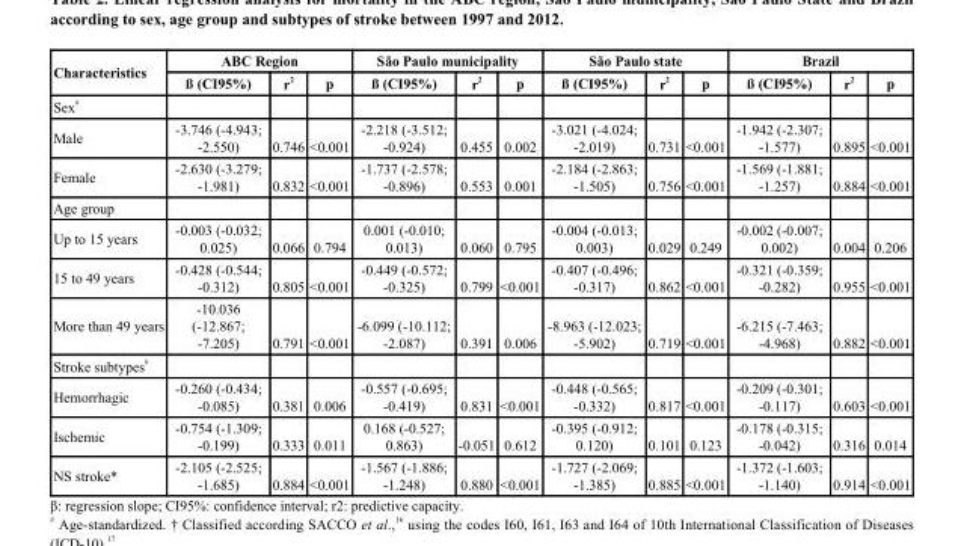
<table><thead><tr><td rowspan="2">Characteristics</td><td colspan="3">ABC Region</td><td colspan="3">São Paulo municipality</td><td colspan="3">São Paulo state</td><td colspan="3">Brazil</td></tr><tr><td>ß (CI95%)</td><td>r <sup>2</sup></td><td>p</td><td>ß (CI95%)</td><td>r <sup>2</sup></td><td>p</td><td>ß (CI95%)</td><td>r <sup>2</sup></td><td>p</td><td>ß (CI95%)</td><td>r <sup>2</sup></td><td>p</td></tr></thead><tbody><tr><td colspan="13">Sex <sup>#</sup></td></tr><tr><td>Male</td><td>-3.746 (-4.943; -2.550)</td><td>0.746</td><td>&lt;0.001</td><td>-2.218 (-3.512; -0.924)</td><td>0.455</td><td>0.002</td><td>-3.021 (-4.024; -2.019)</td><td>0.731</td><td>&lt;0.001</td><td>-1.942 (-2.307; -1.577)</td><td>0.895</td><td>&lt;0.001</td></tr><tr><td>Female</td><td>-2.630 (-3.279; -1.981)</td><td>0.832</td><td>&lt;0.001</td><td>-1.737 (-2.578; -0.896)</td><td>0.553</td><td>0.001</td><td>-2.184 (-2.863; -1.505)</td><td>0.756</td><td>&lt;0.001</td><td>-1.569 (-1.881; -1.257)</td><td>0.884</td><td>&lt;0.001</td></tr><tr><td colspan="13">Age group</td></tr><tr><td>Up to 15 years</td><td>-0.003 (-0.032; 0.025)</td><td>0.066</td><td>0.794</td><td>0.001 (-0.010; 0.013)</td><td>0.060</td><td>0.795</td><td>-0.004 (-0.013; 0.003)</td><td>0.029</td><td>0.249</td><td>-0.002 (-0.007; 0.002)</td><td>0.004</td><td>0.206</td></tr><tr><td>15 to 49 years</td><td>-0.428 (-0.544; -0.312)</td><td>0.805</td><td>&lt;0.001</td><td>-0.449 (-0.572; -0.325)</td><td>0.799</td><td>&lt;0.001</td><td>-0.407 (-0.496; -0.317)</td><td>0.862</td><td>&lt;0.001</td><td>-0.321 (-0.359; -0.282)</td><td>0.955</td><td>&lt;0.001</td></tr><tr><td>More than 49 years</td><td>-10.036 (-12.867; -7.205)</td><td>0.791</td><td>&lt;0.001</td><td>-6.099 (-10.112; -2.087)</td><td>0.391</td><td>0.006</td><td>-8.963 (-12.023; -5.902)</td><td>0.719</td><td>&lt;0.001</td><td>-6.215 (-7.463; -4.968)</td><td>0.882</td><td>&lt;0.001</td></tr><tr><td colspan="13">Stroke subtypes <sup>#</sup></td></tr><tr><td>Hemorrhagic</td><td>-0.260 (-0.434; -0.085)</td><td>0.381</td><td>0.006</td><td>-0.557 (-0.695; -0.419)</td><td>0.831</td><td>&lt;0.001</td><td>-0.448 (-0.565; -0.332)</td><td>0.817</td><td>&lt;0.001</td><td>-0.209 (-0.301; -0.117)</td><td>0.603</td><td>&lt;0.001</td></tr><tr><td>Ischemic</td><td>-0.754 (-1.309; -0.199)</td><td>0.333</td><td>0.011</td><td>0.168 (-0.527; 0.863)</td><td>-0.051</td><td>0.612</td><td>-0.395 (-0.912; 0.120)</td><td>0.101</td><td>0.123</td><td>-0.178 (-0.315; -0.042)</td><td>0.316</td><td>0.014</td></tr><tr><td>NS stroke*</td><td>-2.105 (-2.525; -1.685)</td><td>0.884</td><td>&lt;0.001</td><td>-1.567 (-1.886; -1.248)</td><td>0.880</td><td>&lt;0.001</td><td>-1.727 (-2.069; -1.385)</td><td>0.885</td><td>&lt;0.001</td><td>-1.372 (-1.603; -1.140)</td><td>0.914</td><td>&lt;0.001</td></tr></tbody></table>